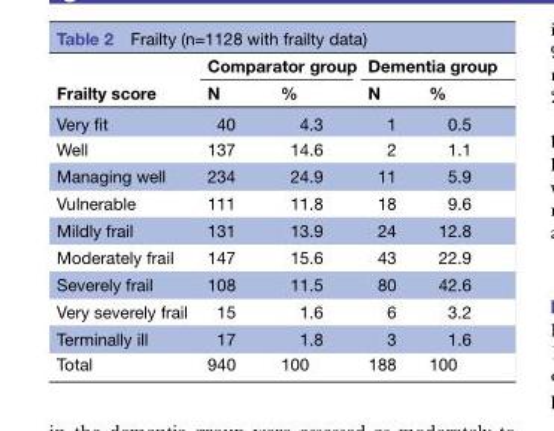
<table><thead><tr><td rowspan="2">Frailty score</td><td colspan="2">Comparator group</td><td colspan="2">Dementia group</td></tr><tr><td>N</td><td>%</td><td>N</td><td>%</td></tr></thead><tbody><tr><td>Very fit</td><td>40</td><td>4.3</td><td>1</td><td>0.5</td></tr><tr><td>Well</td><td>137</td><td>14.6</td><td>2</td><td>1.1</td></tr><tr><td>Managing well</td><td>234</td><td>24.9</td><td>11</td><td>5.9</td></tr><tr><td>Vulnerable</td><td>111</td><td>11.8</td><td>18</td><td>9.6</td></tr><tr><td>Mildly frail</td><td>131</td><td>13.9</td><td>24</td><td>12.8</td></tr><tr><td>Moderately frail</td><td>147</td><td>15.6</td><td>43</td><td>22.9</td></tr><tr><td>Severely frail</td><td>108</td><td>11.5</td><td>80</td><td>42.6</td></tr><tr><td>Very severely frail</td><td>15</td><td>1.6</td><td>6</td><td>3.2</td></tr><tr><td>Terminally ill</td><td>17</td><td>1.8</td><td>3</td><td>1.6</td></tr><tr><td>Total</td><td>940</td><td>100</td><td>188</td><td>100</td></tr></tbody></table>